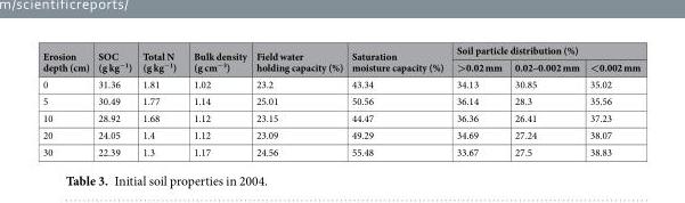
<table><thead><tr><td rowspan="2">Erosion depth (cm)</td><td rowspan="2">SOC (g kg<sup>−1</sup>)</td><td rowspan="2">Total N (g kg<sup>−1</sup>)</td><td rowspan="2">Bulk density (g cm<sup>−3</sup>)</td><td rowspan="2">Field water holding capacity (%)</td><td rowspan="2">Saturation moisture capacity (%)</td><td colspan="3">Soil particle distribution (%)</td></tr><tr><td>&gt;0.02 mm</td><td>0.02–0.002 mm</td><td>&lt;0.002 mm</td></tr></thead><tbody><tr><td>0</td><td>31.36</td><td>1.81</td><td>1.02</td><td>23.2</td><td>43.34</td><td>34.13</td><td>30.85</td><td>35.02</td></tr><tr><td>5</td><td>30.49</td><td>1.77</td><td>1.14</td><td>25.01</td><td>50.56</td><td>36.14</td><td>28.3</td><td>35.56</td></tr><tr><td>10</td><td>28.92</td><td>1.68</td><td>1.12</td><td>23.15</td><td>44.47</td><td>36.36</td><td>26.41</td><td>37.23</td></tr><tr><td>20</td><td>24.05</td><td>1.4</td><td>1.12</td><td>23.09</td><td>49.29</td><td>34.69</td><td>27.24</td><td>38.07</td></tr><tr><td>30</td><td>22.39</td><td>1.3</td><td>1.17</td><td>24.56</td><td>55.48</td><td>33.67</td><td>27.5</td><td>38.83</td></tr></tbody></table>